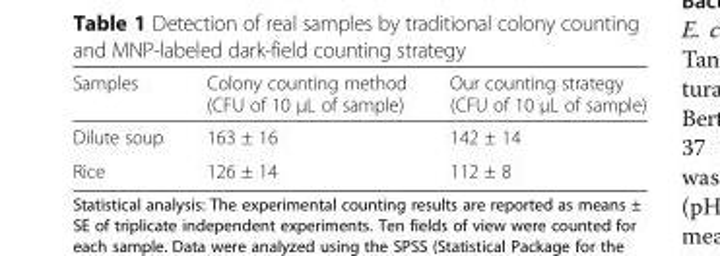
<table><thead><tr><td>Samples</td><td>Colony counting method (CFU of 10 μL of sample)</td><td>Our counting strategy (CFU of 10 μL of sample)</td></tr></thead><tbody><tr><td>Dilute soup</td><td>163 ± 16</td><td>142 ± 14</td></tr><tr><td>Rice</td><td>126 ± 14</td><td>112 ± 8</td></tr></tbody></table>